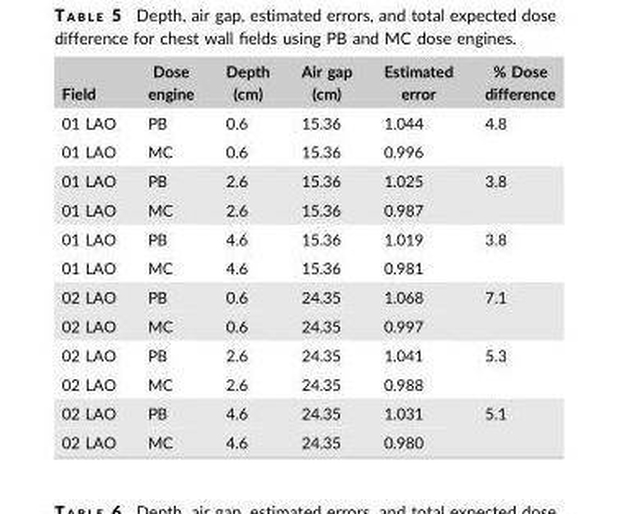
<table><thead><tr><td>Field</td><td>Dose engine</td><td>Depth (cm)</td><td>Air gap (cm)</td><td>Estimated error</td><td>% Dose difference</td></tr></thead><tbody><tr><td>01 LAO</td><td>PB</td><td>0.6</td><td>15.36</td><td>1.044</td><td rowspan="2">4.8</td></tr><tr><td>01 LAO</td><td>MC</td><td>0.6</td><td>15.36</td><td>0.996</td></tr><tr><td>01 LAO</td><td>PB</td><td>2.6</td><td>15.36</td><td>1.025</td><td rowspan="2">3.8</td></tr><tr><td>01 LAO</td><td>MC</td><td>2.6</td><td>15.36</td><td>0.987</td></tr><tr><td>01 LAO</td><td>PB</td><td>4.6</td><td>15.36</td><td>1.019</td><td rowspan="2">3.8</td></tr><tr><td>01 LAO</td><td>MC</td><td>4.6</td><td>15.36</td><td>0.981</td></tr><tr><td>02 LAO</td><td>PB</td><td>0.6</td><td>24.35</td><td>1.068</td><td rowspan="2">7.1</td></tr><tr><td>02 LAO</td><td>MC</td><td>0.6</td><td>24.35</td><td>0.997</td></tr><tr><td>02 LAO</td><td>PB</td><td>2.6</td><td>24.35</td><td>1.041</td><td rowspan="2">5.3</td></tr><tr><td>02 LAO</td><td>MC</td><td>2.6</td><td>24.35</td><td>0.988</td></tr><tr><td>02 LAO</td><td>PB</td><td>4.6</td><td>24.35</td><td>1.031</td><td rowspan="2">5.1</td></tr><tr><td>02 LAO</td><td>MC</td><td>4.6</td><td>24.35</td><td>0.980</td></tr></tbody></table>